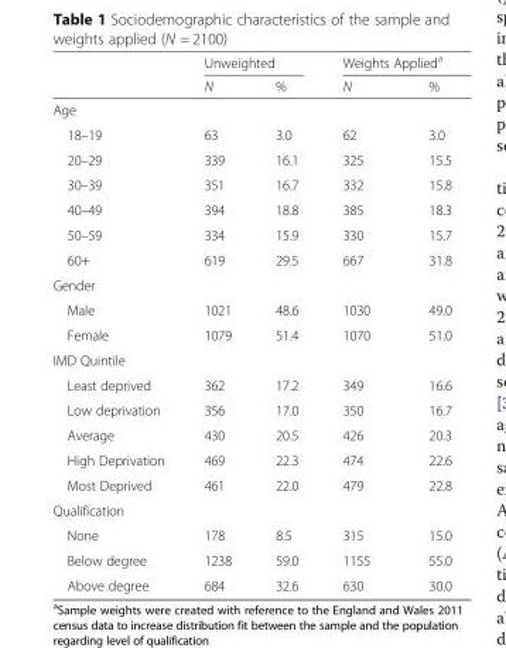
<table><thead><tr><td rowspan="2"></td><td colspan="2">Unweighted</td><td colspan="2">Weights Applied<sup>a</sup></td></tr><tr><td>N</td><td>%</td><td>N</td><td>%</td></tr></thead><tbody><tr><td colspan="5">Age</td></tr><tr><td>18–19</td><td>63</td><td>3.0</td><td>62</td><td>3.0</td></tr><tr><td>20–29</td><td>339</td><td>16.1</td><td>325</td><td>15.5</td></tr><tr><td>30–39</td><td>351</td><td>16.7</td><td>332</td><td>15.8</td></tr><tr><td>40–49</td><td>394</td><td>18.8</td><td>385</td><td>18.3</td></tr><tr><td>50–59</td><td>334</td><td>15.9</td><td>330</td><td>15.7</td></tr><tr><td>60+</td><td>619</td><td>29.5</td><td>667</td><td>31.8</td></tr><tr><td colspan="5">Gender</td></tr><tr><td>Male</td><td>1021</td><td>48.6</td><td>1030</td><td>49.0</td></tr><tr><td>Female</td><td>1079</td><td>51.4</td><td>1070</td><td>51.0</td></tr><tr><td colspan="5">IMD Quintile</td></tr><tr><td>Least deprived</td><td>362</td><td>17.2</td><td>349</td><td>16.6</td></tr><tr><td>Low deprivation</td><td>356</td><td>17.0</td><td>350</td><td>16.7</td></tr><tr><td>Average</td><td>430</td><td>20.5</td><td>426</td><td>20.3</td></tr><tr><td>High Deprivation</td><td>469</td><td>22.3</td><td>474</td><td>22.6</td></tr><tr><td>Most Deprived</td><td>461</td><td>22.0</td><td>479</td><td>22.8</td></tr><tr><td colspan="5">Qualification</td></tr><tr><td>None</td><td>178</td><td>8.5</td><td>315</td><td>15.0</td></tr><tr><td>Below degree</td><td>1238</td><td>59.0</td><td>1155</td><td>55.0</td></tr><tr><td>Above degree</td><td>684</td><td>32.6</td><td>630</td><td>30.0</td></tr></tbody></table>